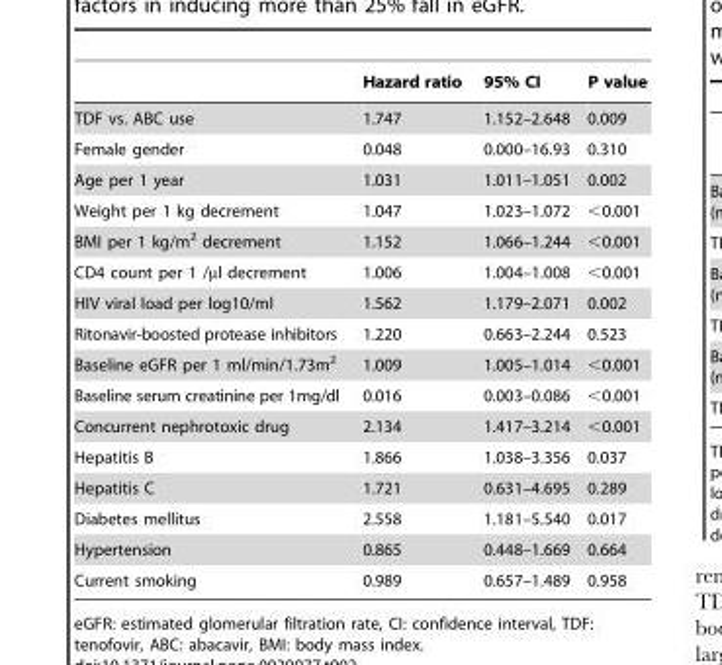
<table><thead><tr><td></td><td>Hazard ratio</td><td>95% CI</td><td>P value</td></tr></thead><tbody><tr><td>TDF vs. ABC use</td><td>1.747</td><td>1.152–2.648</td><td>0.009</td></tr><tr><td>Female gender</td><td>0.048</td><td>0.000–16.93</td><td>0.310</td></tr><tr><td>Age per 1 year</td><td>1.031</td><td>1.011–1.051</td><td>0.002</td></tr><tr><td>Weight per 1 kg decrement</td><td>1.047</td><td>1.023–1.072</td><td>&lt;0.001</td></tr><tr><td>BMI per 1 kg/m<sup>2</sup> decrement</td><td>1.152</td><td>1.066–1.244</td><td>&lt;0.001</td></tr><tr><td>CD4 count per 1 /µl decrement</td><td>1.006</td><td>1.004–1.008</td><td>&lt;0.001</td></tr><tr><td>HIV viral load per log10/ml</td><td>1.562</td><td>1.179–2.071</td><td>0.002</td></tr><tr><td>Ritonavir-boosted protease inhibitors</td><td>1.220</td><td>0.663–2.244</td><td>0.523</td></tr><tr><td>Baseline eGFR per 1 ml/min/1.73m<sup>2</sup></td><td>1.009</td><td>1.005–1.014</td><td>&lt;0.001</td></tr><tr><td>Baseline serum creatinine per 1mg/dl</td><td>0.016</td><td>0.003–0.086</td><td>&lt;0.001</td></tr><tr><td>Concurrent nephrotoxic drug</td><td>2.134</td><td>1.417–3.214</td><td>&lt;0.001</td></tr><tr><td>Hepatitis B</td><td>1.866</td><td>1.038–3.356</td><td>0.037</td></tr><tr><td>Hepatitis C</td><td>1.721</td><td>0.631–4.695</td><td>0.289</td></tr><tr><td>Diabetes mellitus</td><td>2.558</td><td>1.181–5.540</td><td>0.017</td></tr><tr><td>Hypertension</td><td>0.865</td><td>0.448–1.669</td><td>0.664</td></tr><tr><td>Current smoking</td><td>0.989</td><td>0.657–1.489</td><td>0.958</td></tr></tbody></table>